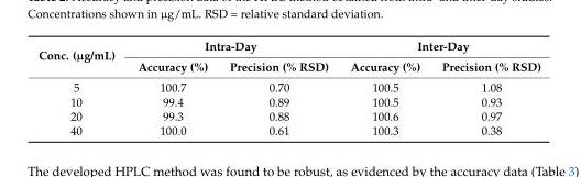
<table><thead><tr><td rowspan="2">Conc. (µg/mL)</td><td colspan="2">Intra-Day</td><td colspan="2">Inter-Day</td></tr><tr><td>Accuracy (%)</td><td>Precision (% RSD)</td><td>Accuracy (%)</td><td>Precision (% RSD)</td></tr></thead><tbody><tr><td>5</td><td>100.7</td><td>0.70</td><td>100.5</td><td>1.08</td></tr><tr><td>10</td><td>99.4</td><td>0.89</td><td>100.5</td><td>0.93</td></tr><tr><td>20</td><td>99.3</td><td>0.88</td><td>100.6</td><td>0.97</td></tr><tr><td>40</td><td>100.0</td><td>0.61</td><td>100.3</td><td>0.38</td></tr></tbody></table>